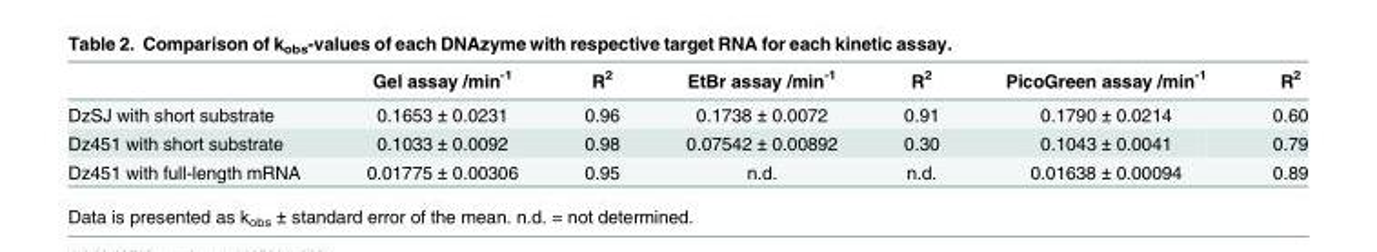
<table><thead><tr><td></td><td>Gel assay /min<sup>-1</sup></td><td>R<sup>2</sup></td><td>EtBr assay /min<sup>-1</sup></td><td>R<sup>2</sup></td><td>PicoGreen assay /min<sup>-1</sup></td><td>R<sup>2</sup></td></tr></thead><tbody><tr><td>DzSJ with short substrate</td><td>0.1653 ± 0.0231</td><td>0.96</td><td>0.1738 ± 0.0072</td><td>0.91</td><td>0.1790 ± 0.0214</td><td>0.60</td></tr><tr><td>Dz451 with short substrate</td><td>0.1033 ± 0.0092</td><td>0.98</td><td>0.07542 ± 0.00892</td><td>0.30</td><td>0.1043 ± 0.0041</td><td>0.79</td></tr><tr><td>Dz451 with full-length mRNA</td><td>0.01775 ± 0.00306</td><td>0.95</td><td>n.d.</td><td>n.d.</td><td>0.01638 ± 0.00094</td><td>0.89</td></tr></tbody></table>